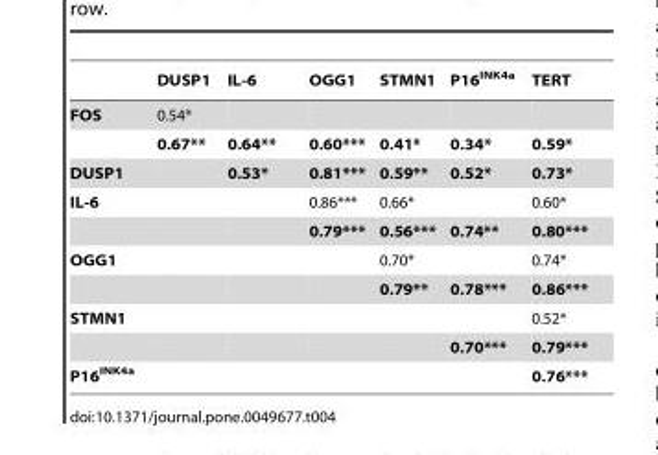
<table><thead><tr><td></td><td>DUSP1</td><td>IL-6</td><td>OGG1</td><td>STMN1</td><td>P16<sup>INK4a</sup></td><td>TERT</td></tr></thead><tbody><tr><td rowspan="2">FOS</td><td>0.54*</td><td></td><td></td><td></td><td></td><td></td></tr><tr><td>0.67**</td><td>0.64**</td><td>0.60***</td><td>0.41*</td><td>0.34*</td><td>0.59*</td></tr><tr><td>DUSP1</td><td></td><td>0.53*</td><td>0.81***</td><td>0.59**</td><td>0.52*</td><td>0.73*</td></tr><tr><td rowspan="2">IL-6</td><td></td><td></td><td>0.86***</td><td>0.66*</td><td></td><td>0.60*</td></tr><tr><td></td><td></td><td>0.79***</td><td>0.56***</td><td>0.74**</td><td>0.80***</td></tr><tr><td rowspan="2">OGG1</td><td></td><td></td><td></td><td>0.70*</td><td></td><td>0.74*</td></tr><tr><td></td><td></td><td></td><td>0.79**</td><td>0.78***</td><td>0.86***</td></tr><tr><td rowspan="2">STMN1</td><td></td><td></td><td></td><td></td><td></td><td>0.52*</td></tr><tr><td></td><td></td><td></td><td></td><td>0.70***</td><td>0.79***</td></tr><tr><td>P16<sup>INK4a</sup></td><td></td><td></td><td></td><td></td><td></td><td>0.76***</td></tr></tbody></table>